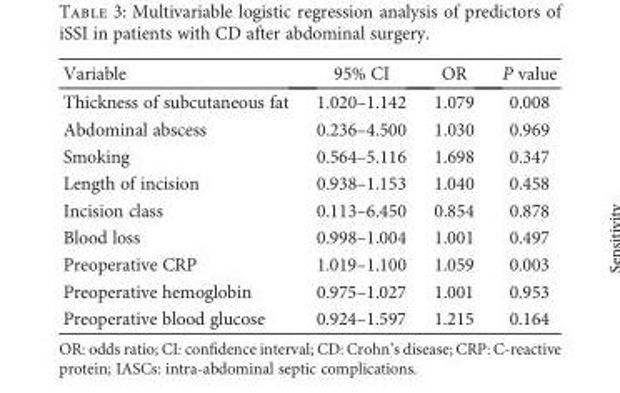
<table><thead><tr><td>Variable</td><td>95% CI</td><td>OR</td><td>P value</td></tr></thead><tbody><tr><td>Thickness of subcutaneous fat</td><td>1.020–1.142</td><td>1.079</td><td>0.008</td></tr><tr><td>Abdominal abscess</td><td>0.236–4.500</td><td>1.030</td><td>0.969</td></tr><tr><td>Smoking</td><td>0.564–5.116</td><td>1.698</td><td>0.347</td></tr><tr><td>Length of incision</td><td>0.938–1.153</td><td>1.040</td><td>0.458</td></tr><tr><td>Incision class</td><td>0.113–6.450</td><td>0.854</td><td>0.878</td></tr><tr><td>Blood loss</td><td>0.998–1.004</td><td>1.001</td><td>0.497</td></tr><tr><td>Preoperative CRP</td><td>1.019–1.100</td><td>1.059</td><td>0.003</td></tr><tr><td>Preoperative hemoglobin</td><td>0.975–1.027</td><td>1.001</td><td>0.953</td></tr><tr><td>Preoperative blood glucose</td><td>0.924–1.597</td><td>1.215</td><td>0.164</td></tr></tbody></table>